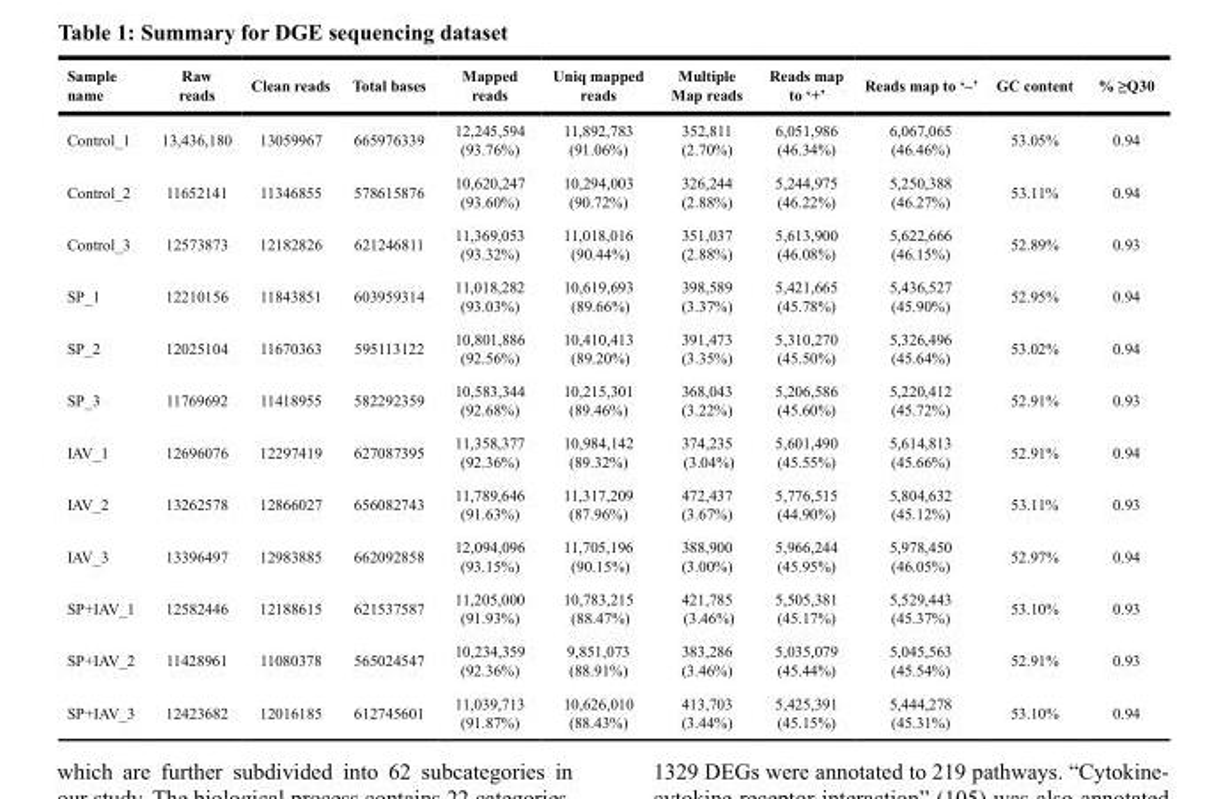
<table><thead><tr><td>Sample name</td><td>Raw reads</td><td>Clean reads</td><td>Total bases</td><td>Mapped reads</td><td>Uniq mapped reads</td><td>Multiple Map reads</td><td>Reads map to ‘+’</td><td>Reads map to ‘–’</td><td>GC content</td><td>% ≥Q30</td></tr></thead><tbody><tr><td>Control_1</td><td>13,436,180</td><td>13059967</td><td>665976339</td><td>12,245,594 (93.76%)</td><td>11,892,783 (91.06%)</td><td>352,811 (2.70%)</td><td>6,051,986 (46.34%)</td><td>6,067,065 (46.46%)</td><td>53.05%</td><td>0.94</td></tr><tr><td>Control_2</td><td>11652141</td><td>11346855</td><td>578615876</td><td>10,620,247 (93.60%)</td><td>10,294,003 (90.72%)</td><td>326,244 (2.88%)</td><td>5,244,975 (46.22%)</td><td>5,250,388 (46.27%)</td><td>53.11%</td><td>0.94</td></tr><tr><td>Control_3</td><td>12573873</td><td>12182826</td><td>621246811</td><td>11,369,053 (93.32%)</td><td>11,018,016 (90.44%)</td><td>351,037 (2.88%)</td><td>5,613,900 (46.08%)</td><td>5,622,666 (46.15%)</td><td>52.89%</td><td>0.93</td></tr><tr><td>SP_1</td><td>12210156</td><td>11843851</td><td>603959314</td><td>11,018,282 (93.03%)</td><td>10,619,693 (89.66%)</td><td>398,589 (3.37%)</td><td>5,421,665 (45.78%)</td><td>5,436,527 (45.90%)</td><td>52.95%</td><td>0.94</td></tr><tr><td>SP_2</td><td>12025104</td><td>11670363</td><td>595113122</td><td>10,801,886 (92.56%)</td><td>10,410,413 (89.20%)</td><td>391,473 (3.35%)</td><td>5,310,270 (45.50%)</td><td>5,326,496 (45.64%)</td><td>53.02%</td><td>0.94</td></tr><tr><td>SP_3</td><td>11769692</td><td>11418955</td><td>582292359</td><td>10,583,344 (92.68%)</td><td>10,215,301 (89.46%)</td><td>368,043 (3.22%)</td><td>5,206,586 (45.60%)</td><td>5,220,412 (45.72%)</td><td>52.91%</td><td>0.93</td></tr><tr><td>IAV_1</td><td>12696076</td><td>12297419</td><td>627087395</td><td>11,358,377 (92.36%)</td><td>10,984,142 (89.32%)</td><td>374,235 (3.04%)</td><td>5,601,490 (45.55%)</td><td>5,614,813 (45.66%)</td><td>52.91%</td><td>0.94</td></tr><tr><td>IAV_2</td><td>13262578</td><td>12866027</td><td>656082743</td><td>11,789,646 (91.63%)</td><td>11,317,209 (87.96%)</td><td>472,437 (3.67%)</td><td>5,776,515 (44.90%)</td><td>5,804,632 (45.12%)</td><td>53.11%</td><td>0.93</td></tr><tr><td>IAV_3</td><td>13396497</td><td>12983885</td><td>662092858</td><td>12,094,096 (93.15%)</td><td>11,705,196 (90.15%)</td><td>388,900 (3.00%)</td><td>5,966,244 (45.95%)</td><td>5,978,450 (46.05%)</td><td>52.97%</td><td>0.94</td></tr><tr><td>SP+IAV_1</td><td>12582446</td><td>12188615</td><td>621537587</td><td>11,205,000 (91.93%)</td><td>10,783,215 (88.47%)</td><td>421,785 (3.46%)</td><td>5,505,381 (45.17%)</td><td>5,529,443 (45.37%)</td><td>53.10%</td><td>0.93</td></tr><tr><td>SP+IAV_2</td><td>11428961</td><td>11080378</td><td>565024547</td><td>10,234,359 (92.36%)</td><td>9,851,073 (88.91%)</td><td>383,286 (3.46%)</td><td>5,035,079 (45.44%)</td><td>5,045,563 (45.54%)</td><td>52.91%</td><td>0.93</td></tr><tr><td>SP+IAV_3</td><td>12423682</td><td>12016185</td><td>612745601</td><td>11,039,713 (91.87%)</td><td>10,626,010 (88.43%)</td><td>413,703 (3.44%)</td><td>5,425,391 (45.15%)</td><td>5,444,278 (45.31%)</td><td>53.10%</td><td>0.94</td></tr></tbody></table>